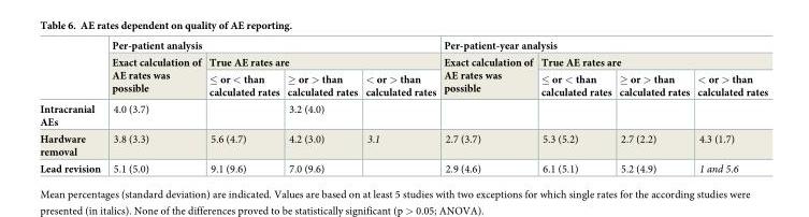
<table><thead><tr><td rowspan="3"></td><td colspan="4">Per-patient analysis</td><td colspan="4">Per-patient-year analysis</td></tr><tr><td rowspan="2">Exact calculation of AE rates was possible</td><td colspan="3">True AE rates are</td><td rowspan="2">Exact calculation of AE rates was possible</td><td colspan="3">True AE rates are</td></tr><tr><td>≤ or &lt; than calculated rates</td><td>≥ or &gt; than calculated rates</td><td>&lt; or &gt; than calculated rates</td><td>≤ or &lt; than calculated rates</td><td>≥ or &gt; than calculated rates</td><td>&lt; or &gt; than calculated rates</td></tr></thead><tbody><tr><td>Intracranial AEs</td><td>4.0 (3.7)</td><td></td><td>3.2 (4.0)</td><td></td><td></td><td></td><td></td><td></td></tr><tr><td>Hardware removal</td><td>3.8 (3.3)</td><td>5.6 (4.7)</td><td>4.2 (3.0)</td><td>3.1</td><td>2.7 (3.7)</td><td>5.3 (5.2)</td><td>2.7 (2.2)</td><td>4.3 (1.7)</td></tr><tr><td>Lead revision</td><td>5.1 (5.0)</td><td>9.1 (9.6)</td><td>7.0 (9.6)</td><td></td><td>2.9 (4.6)</td><td>6.1 (5.1)</td><td>5.2 (4.9)</td><td>1 and 5.6</td></tr></tbody></table>